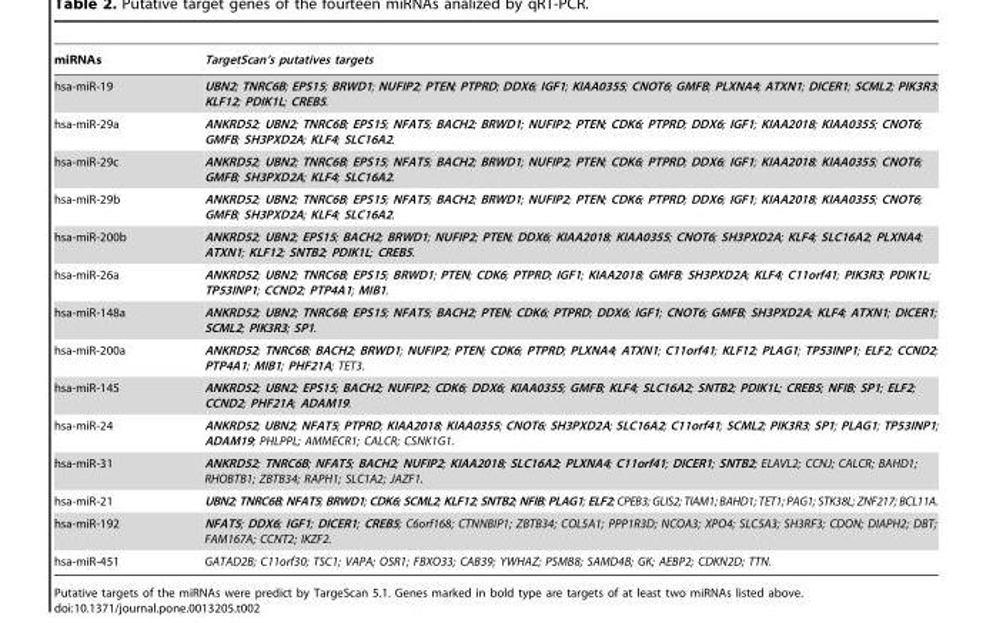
<table><thead><tr><td>miRNAs</td><td>TargetScan’s putatives targets</td></tr></thead><tbody><tr><td>hsa-miR-19</td><td>UBN2; TNRC6B; EPS15; BRWD1; NUFIP2; PTEN; PTPRD; DDX6; IGF1; KIAA0355; CNOT6; GMFB; PLXNA4; ATXN1; DICER1; SCML2; PIK3R3; KLF12; PDIK1L; CREB5.</td></tr><tr><td>hsa-miR-29a</td><td>ANKRD52; UBN2; TNRC6B; EPS15; NFAT5; BACH2; BRWD1; NUFIP2; PTEN; CDK6; PTPRD; DDX6; IGF1; KIAA2018; KIAA0355; CNOT6; GMFB; SH3PXD2A; KLF4; SLC16A2.</td></tr><tr><td>hsa-miR-29c</td><td>ANKRD52; UBN2; TNRC6B; EPS15; NFAT5; BACH2; BRWD1; NUFIP2; PTEN; CDK6; PTPRD; DDX6; IGF1; KIAA2018; KIAA0355; CNOT6; GMFB; SH3PXD2A; KLF4; SLC16A2.</td></tr><tr><td>hsa-miR-29b</td><td>ANKRD52; UBN2; TNRC6B; EPS15; NFAT5; BACH2; BRWD1; NUFIP2; PTEN; CDK6; PTPRD; DDX6; IGF1; KIAA2018; KIAA0355; CNOT6; GMFB; SH3PXD2A; KLF4; SLC16A2.</td></tr><tr><td>hsa-miR-200b</td><td>ANKRD52; UBN2; EPS15; BACH2; BRWD1; NUFIP2; PTEN; DDX6; KIAA2018; KIAA0355; CNOT6; SH3PXD2A; KLF4; SLC16A2; PLXNA4; ATXN1; KLF12; SNTB2; PDIK1L; CREB5.</td></tr><tr><td>hsa-miR-26a</td><td>ANKRD52; UBN2; TNRC6B; EPS15; BRWD1; PTEN; CDK6; PTPRD; IGF1; KIAA2018; GMFB; SH3PXD2A; KLF4; C11orf41; PIK3R3; PDIK1L; TP53INP1; CCND2; PTP4A1; MIB1.</td></tr><tr><td>hsa-miR-148a</td><td>ANKRD52; UBN2; TNRC6B; EPS15; NFAT5; BACH2; PTEN; CDK6; PTPRD; DDX6; IGF1; CNOT6; GMFB; SH3PXD2A; KLF4; ATXN1; DICER1; SCML2; PIK3R3; SP1.</td></tr><tr><td>hsa-miR-200a</td><td>ANKRD52; TNRC6B; BACH2; BRWD1; NUFIP2; PTEN; CDK6; PTPRD; PLXNA4; ATXN1; C11orf41; KLF12; PLAG1; TP53INP1; ELF2; CCND2; PTP4A1; MIB1; PHF21A; TET3.</td></tr><tr><td>hsa-miR-145</td><td>ANKRD52; UBN2; EPS15; BACH2; NUFIP2; CDK6; DDX6; KIAA0355; GMFB; KLF4; SLC16A2; SNTB2; PDIK1L; CREB5; NFIB; SP1; ELF2; CCND2; PHF21A; ADAM19.</td></tr><tr><td>hsa-miR-24</td><td>ANKRD52; UBN2; NFAT5; PTPRD; KIAA2018; KIAA0355; CNOT6; SH3PXD2A; SLC16A2; C11orf41; SCML2; PIK3R3; SP1; PLAG1; TP53INP1; ADAM19; PHLPPL; AMMECR1; CALCR; CSNK1G1.</td></tr><tr><td>hsa-miR-31</td><td>ANKRD52; TNRC6B; NFAT5; BACH2; NUFIP2; KIAA2018; SLC16A2; PLXNA4; C11orf41; DICER1; SNTB2; ELAVL2; CCNJ; CALCR; BAHD1; RHOBTB1; ZBTB34; RAPH1; SLC1A2; JAZF1.</td></tr><tr><td>hsa-miR-21</td><td>UBN2; TNRC6B; NFAT5; BRWD1; CDK6; SCML2; KLF12; SNTB2; NFIB; PLAG1; ELF2; CPEB3; GLIS2; TIAM1; BAHD1; TET1; PAG1; STK38L; ZNF217; BCL11A.</td></tr><tr><td>hsa-miR-192</td><td>NFAT5; DDX6; IGF1; DICER1; CREB5; C6orf168; CTNNBIP1; ZBTB34; COL5A1; PPP1R3D; NCOA3; XPO4; SLC5A3; SH3RF3; CDON; DIAPH2; DBT; FAM167A; CCNT2; IKZF2.</td></tr><tr><td>hsa-miR-451</td><td>GATAD2B; C11orf30; TSC1; VAPA; OSR1; FBXO33; CAB39; YWHAZ; PSMB8; SAMD4B; GK; AEBP2; CDKN2D; TTN.</td></tr></tbody></table>